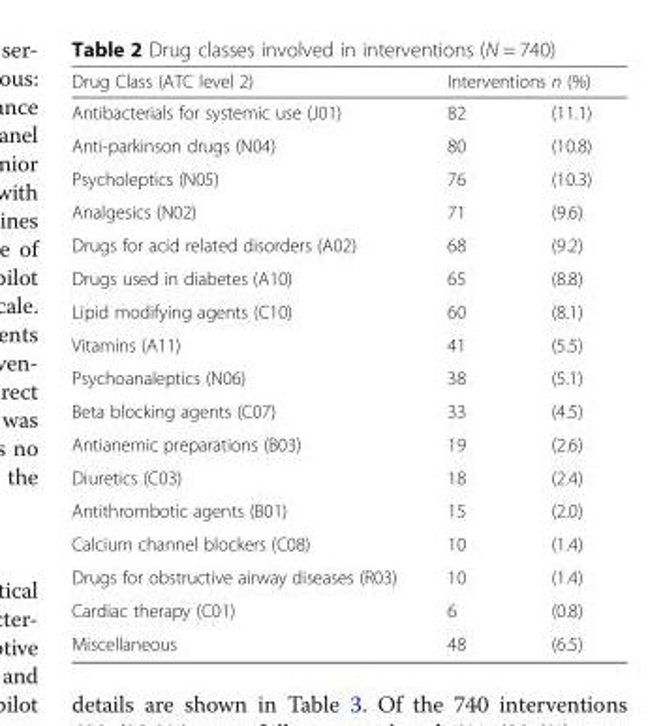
<table><thead><tr><td rowspan="2">Drug Class (ATC level 2) Antibacterials for systemic use (J01)</td><td colspan="2">Interventions n (%)</td></tr><tr><td>82</td><td>(11.1)</td></tr></thead><tbody><tr><td>Anti-parkinson drugs (N04)</td><td>80</td><td>(10.8)</td></tr><tr><td>Psycholeptics (N05)</td><td>76</td><td>(10.3)</td></tr><tr><td>Analgesics (N02)</td><td>71</td><td>(9.6)</td></tr><tr><td>Drugs for acid related disorders (A02)</td><td>68</td><td>(9.2)</td></tr><tr><td>Drugs used in diabetes (A10)</td><td>65</td><td>(8.8)</td></tr><tr><td>Lipid modifying agents (C10)</td><td>60</td><td>(8.1)</td></tr><tr><td>Vitamins (A11)</td><td>41</td><td>(5.5)</td></tr><tr><td>Psychoanaleptics (N06)</td><td>38</td><td>(5.1)</td></tr><tr><td>Beta blocking agents (C07)</td><td>33</td><td>(4.5)</td></tr><tr><td>Antianemic preparations (B03)</td><td>19</td><td>(2.6)</td></tr><tr><td>Diuretics (C03)</td><td>18</td><td>(2.4)</td></tr><tr><td>Antithrombotic agents (B01)</td><td>15</td><td>(2.0)</td></tr><tr><td>Calcium channel blockers (C08)</td><td>10</td><td>(1.4)</td></tr><tr><td>Drugs for obstructive airway diseases (R03)</td><td>10</td><td>(1.4)</td></tr><tr><td>Cardiac therapy (C01)</td><td>6</td><td>(0.8)</td></tr><tr><td>Miscellaneous</td><td>48</td><td>(6.5)</td></tr></tbody></table>